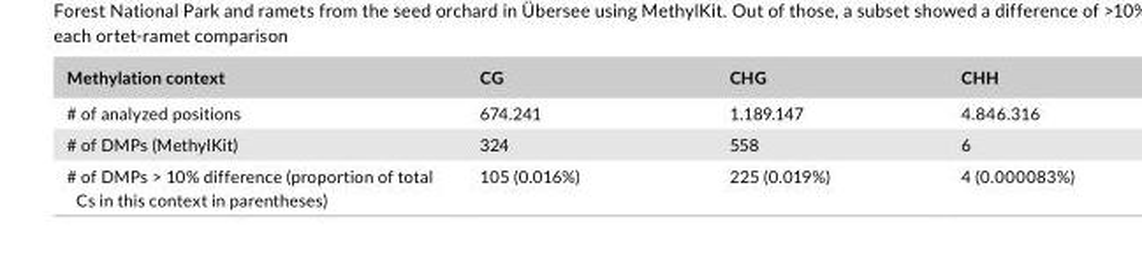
<table><thead><tr><td>Methylation context</td><td>CG</td><td>CHG</td><td>CHH</td></tr></thead><tbody><tr><td># of analyzed positions</td><td>674.241</td><td>1.189.147</td><td>4.846.316</td></tr><tr><td># of DMPs (MethylKit)</td><td>324</td><td>558</td><td>6</td></tr><tr><td># of DMPs &gt; 10% difference (proportion of total Cs in this context in parentheses)</td><td>105 (0.016%)</td><td>225 (0.019%)</td><td>4 (0.000083%)</td></tr></tbody></table>